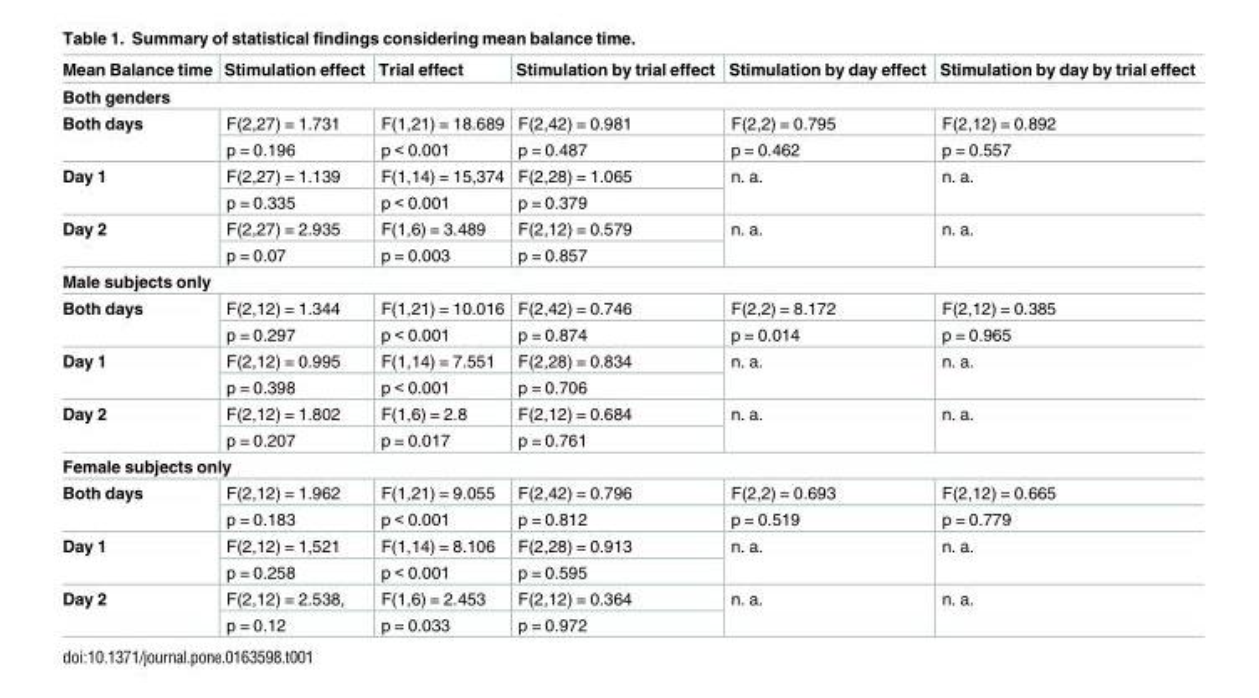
<table><thead><tr><td>Mean Balance time</td><td>Stimulation effect</td><td>Trial effect</td><td>Stimulation by trial effect</td><td>Stimulation by day effect</td><td>Stimulation by day by trial effect</td></tr></thead><tbody><tr><td colspan="6">Both genders</td></tr><tr><td rowspan="2">Both days</td><td>F(2,27) = 1.731</td><td>F(1,21) = 18.689</td><td>F(2,42) = 0.981</td><td>F(2,2) = 0.795</td><td>F(2,12) = 0.892</td></tr><tr><td>p = 0.196</td><td>p &lt; 0.001</td><td>p = 0.487</td><td>p = 0.462</td><td>p = 0.557</td></tr><tr><td rowspan="2">Day 1</td><td>F(2,27) = 1.139</td><td>F(1,14) = 15,374</td><td>F(2,28) = 1.065</td><td rowspan="2">n. a.</td><td rowspan="2">n. a.</td></tr><tr><td>p = 0.335</td><td>p &lt; 0.001</td><td>p = 0.379</td></tr><tr><td rowspan="2">Day 2</td><td>F(2,27) = 2.935</td><td>F(1,6) = 3.489</td><td>F(2,12) = 0.579</td><td rowspan="2">n. a.</td><td rowspan="2">n. a.</td></tr><tr><td>p = 0.07</td><td>p = 0.003</td><td>p = 0.857</td></tr><tr><td colspan="6">Male subjects only</td></tr><tr><td rowspan="2">Both days</td><td>F(2,12) = 1.344</td><td>F(1,21) = 10.016</td><td>F(2,42) = 0.746</td><td>F(2,2) = 8.172</td><td>F(2,12) = 0.385</td></tr><tr><td>p = 0.297</td><td>p &lt; 0.001</td><td>p = 0.874</td><td>p = 0.014</td><td>p = 0.965</td></tr><tr><td rowspan="2">Day 1</td><td>F(2,12) = 0.995</td><td>F(1,14) = 7.551</td><td>F(2,28) = 0.834</td><td rowspan="2">n. a.</td><td rowspan="2">n. a.</td></tr><tr><td>p = 0.398</td><td>p &lt; 0.001</td><td>p = 0.706</td></tr><tr><td rowspan="2">Day 2</td><td>F(2,12) = 1.802</td><td>F(1,6) = 2.8</td><td>F(2,12) = 0.684</td><td rowspan="2">n. a.</td><td rowspan="2">n. a.</td></tr><tr><td>p = 0.207</td><td>p = 0.017</td><td>p = 0.761</td></tr><tr><td colspan="6">Female subjects only</td></tr><tr><td rowspan="2">Both days</td><td>F(2,12) = 1.962</td><td>F(1,21) = 9.055</td><td>F(2,42) = 0.796</td><td>F(2,2) = 0.693</td><td>F(2,12) = 0.665</td></tr><tr><td>p = 0.183</td><td>p &lt; 0.001</td><td>p = 0.812</td><td>p = 0.519</td><td>p = 0.779</td></tr><tr><td rowspan="2">Day 1</td><td>F(2,12) = 1,521</td><td>F(1,14) = 8.106</td><td>F(2,28) = 0.913</td><td rowspan="2">n. a.</td><td rowspan="2">n. a.</td></tr><tr><td>p = 0.258</td><td>p &lt; 0.001</td><td>p = 0.595</td></tr><tr><td rowspan="2">Day 2</td><td>F(2,12) = 2.538,</td><td>F(1,6) = 2.453</td><td>F(2,12) = 0.364</td><td rowspan="2">n. a.</td><td rowspan="2">n. a.</td></tr><tr><td>p = 0.12</td><td>p = 0.033</td><td>p = 0.972</td></tr></tbody></table>